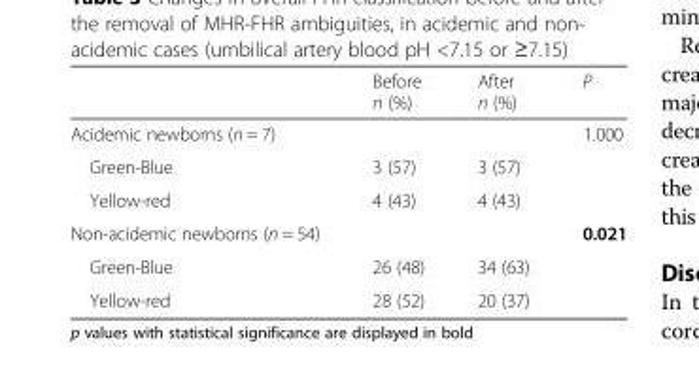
<table><thead><tr><td></td><td>Before n (%)</td><td>After n (%)</td><td>P</td></tr></thead><tbody><tr><td>Acidemic newborns (n = 7)</td><td></td><td></td><td>1.000</td></tr><tr><td>Green-Blue</td><td>3 (57)</td><td>3 (57)</td><td></td></tr><tr><td>Yellow-red</td><td>4 (43)</td><td>4 (43)</td><td></td></tr><tr><td>Non-acidemic newborns (n = 54)</td><td></td><td></td><td>0.021</td></tr><tr><td>Green-Blue</td><td>26 (48)</td><td>34 (63)</td><td></td></tr><tr><td>Yellow-red</td><td>28 (52)</td><td>20 (37)</td><td></td></tr></tbody></table>